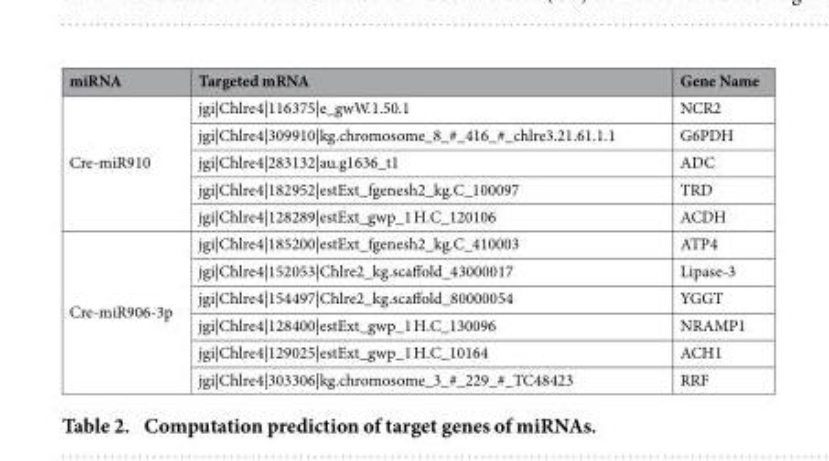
<table><thead><tr><td>miRNA</td><td>Targeted mRNA</td><td>Gene Name</td></tr></thead><tbody><tr><td rowspan="5">Cre-miR910</td><td>jgi|Chlre4|116375|e_gwW.1.50.1</td><td>NCR2</td></tr><tr><td>jgi|Chlre4|309910|kg.chromosome_8_#_416_#_chlre3.21.61.1.1</td><td>G6PDH</td></tr><tr><td>jgi|Chlre4|283132|au.g1636_t1</td><td>ADC</td></tr><tr><td>jgi|Chlre4|182952|estExt_fgenesh2_kg.C_100097</td><td>TRD</td></tr><tr><td>jgi|Chlre4|128289|estExt_gwp_1 H.C_120106</td><td>ACDH</td></tr><tr><td rowspan="6">Cre-miR906-3p</td><td>jgi|Chlre4|185200|estExt_fgenesh2_kg.C_410003</td><td>ATP4</td></tr><tr><td>jgi|Chlre4|152053|Chlre2_kg.scaffold_43000017</td><td>Lipase-3</td></tr><tr><td>jgi|Chlre4|154497|Chlre2_kg.scaffold_80000054</td><td>YGGT</td></tr><tr><td>jgi|Chlre4|128400|estExt_gwp_1 H.C_130096</td><td>NRAMP1</td></tr><tr><td>jgi|Chlre4|129025|estExt_gwp_1 H.C_10164</td><td>ACH1</td></tr><tr><td>jgi|Chlre4|303306|kg.chromosome_3_#_229_#_TC48423</td><td>RRF</td></tr></tbody></table>